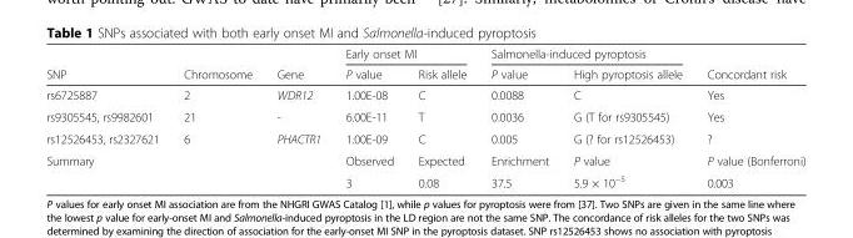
<table><thead><tr><td rowspan="2">SNP</td><td rowspan="2">Chromosome</td><td rowspan="2">Gene</td><td colspan="2">Early onset MI</td><td colspan="2">Salmonella-induced pyroptosis</td><td rowspan="2">Concordant risk</td></tr><tr><td>P value</td><td>Risk allele</td><td>P value</td><td>High pyroptosis allele</td></tr></thead><tbody><tr><td>rs6725887</td><td>2</td><td>WDR12</td><td>1.00E-08</td><td>C</td><td>0.0088</td><td>C</td><td>Yes</td></tr><tr><td>rs9305545, rs9982601</td><td>21</td><td>-</td><td>6.00E-11</td><td>T</td><td>0.0036</td><td>G (T for rs9305545)</td><td>Yes</td></tr><tr><td>rs12526453, rs2327621</td><td>6</td><td>PHACTR1</td><td>1.00E-09</td><td>C</td><td>0.005</td><td>G (? for rs12526453)</td><td>?</td></tr><tr><td rowspan="2">Summary</td><td></td><td></td><td>Observed</td><td>Expected</td><td>Enrichment</td><td>P value</td><td>P value (Bonferroni)</td></tr><tr><td></td><td></td><td>3</td><td>0.08</td><td>37.5</td><td>5.9 × 10<sup>−5</sup></td><td>0.003</td></tr></tbody></table>